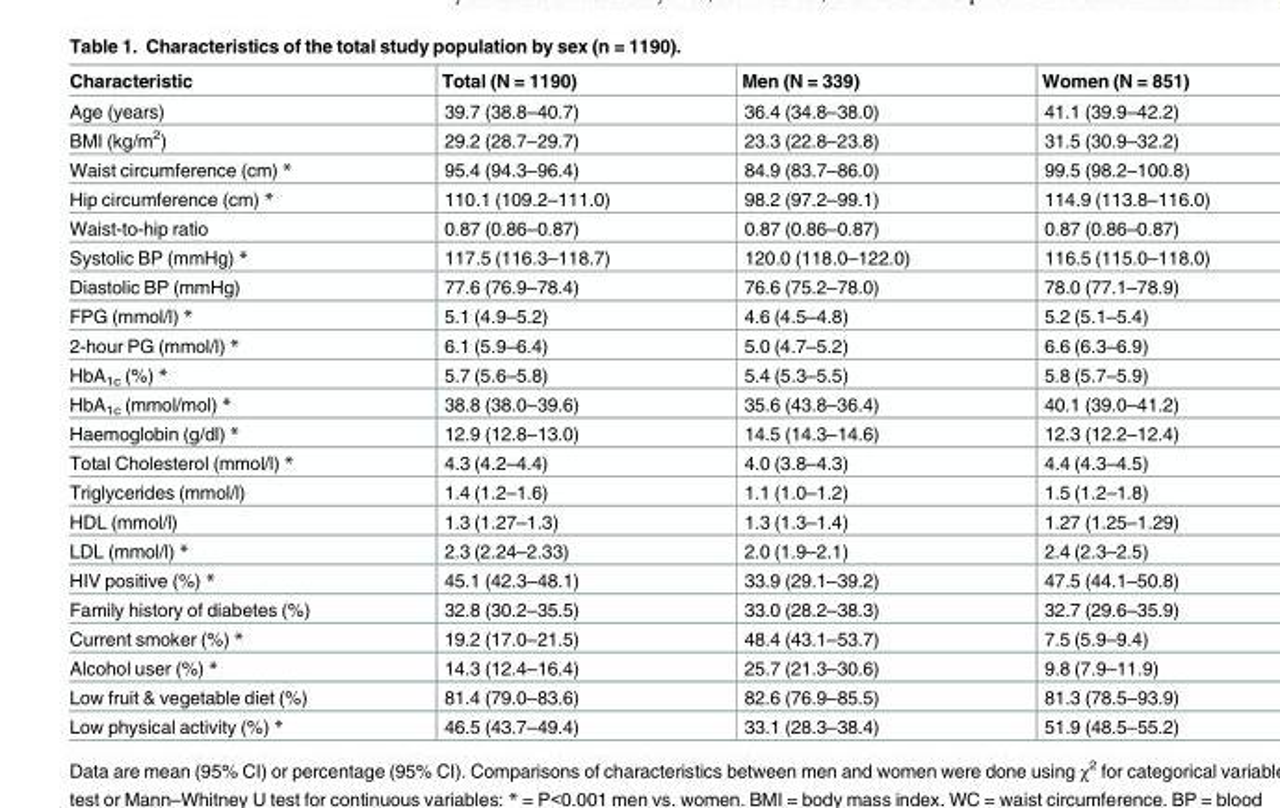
<table><thead><tr><td>Characteristic</td><td>Total (N = 1190)</td><td>Men (N = 339)</td><td>Women (N = 851)</td></tr></thead><tbody><tr><td>Age (years)</td><td>39.7 (38.8–40.7)</td><td>36.4 (34.8–38.0)</td><td>41.1 (39.9–42.2)</td></tr><tr><td>BMI (kg/m<sup>2</sup>)</td><td>29.2 (28.7–29.7)</td><td>23.3 (22.8–23.8)</td><td>31.5 (30.9–32.2)</td></tr><tr><td>Waist circumference (cm) *</td><td>95.4 (94.3–96.4)</td><td>84.9 (83.7–86.0)</td><td>99.5 (98.2–100.8)</td></tr><tr><td>Hip circumference (cm) *</td><td>110.1 (109.2–111.0)</td><td>98.2 (97.2–99.1)</td><td>114.9 (113.8–116.0)</td></tr><tr><td>Waist-to-hip ratio</td><td>0.87 (0.86–0.87)</td><td>0.87 (0.86–0.87)</td><td>0.87 (0.86–0.87)</td></tr><tr><td>Systolic BP (mmHg) *</td><td>117.5 (116.3–118.7)</td><td>120.0 (118.0–122.0)</td><td>116.5 (115.0–118.0)</td></tr><tr><td>Diastolic BP (mmHg)</td><td>77.6 (76.9–78.4)</td><td>76.6 (75.2–78.0)</td><td>78.0 (77.1–78.9)</td></tr><tr><td>FPG (mmol/l) *</td><td>5.1 (4.9–5.2)</td><td>4.6 (4.5–4.8)</td><td>5.2 (5.1–5.4)</td></tr><tr><td>2-hour PG (mmol/l) *</td><td>6.1 (5.9–6.4)</td><td>5.0 (4.7–5.2)</td><td>6.6 (6.3–6.9)</td></tr><tr><td>HbA<sub>1c</sub> (%) *</td><td>5.7 (5.6–5.8)</td><td>5.4 (5.3–5.5)</td><td>5.8 (5.7–5.9)</td></tr><tr><td>HbA<sub>1c</sub> (mmol/mol) *</td><td>38.8 (38.0–39.6)</td><td>35.6 (43.8–36.4)</td><td>40.1 (39.0–41.2)</td></tr><tr><td>Haemoglobin (g/dl) *</td><td>12.9 (12.8–13.0)</td><td>14.5 (14.3–14.6)</td><td>12.3 (12.2–12.4)</td></tr><tr><td>Total Cholesterol (mmol/l) *</td><td>4.3 (4.2–4.4)</td><td>4.0 (3.8–4.3)</td><td>4.4 (4.3–4.5)</td></tr><tr><td>Triglycerides (mmol/l)</td><td>1.4 (1.2–1.6)</td><td>1.1 (1.0–1.2)</td><td>1.5 (1.2–1.8)</td></tr><tr><td>HDL (mmol/l)</td><td>1.3 (1.27–1.3)</td><td>1.3 (1.3–1.4)</td><td>1.27 (1.25–1.29)</td></tr><tr><td>LDL (mmol/l) *</td><td>2.3 (2.24–2.33)</td><td>2.0 (1.9–2.1)</td><td>2.4 (2.3–2.5)</td></tr><tr><td>HIV positive (%) *</td><td>45.1 (42.3–48.1)</td><td>33.9 (29.1–39.2)</td><td>47.5 (44.1–50.8)</td></tr><tr><td>Family history of diabetes (%)</td><td>32.8 (30.2–35.5)</td><td>33.0 (28.2–38.3)</td><td>32.7 (29.6–35.9)</td></tr><tr><td>Current smoker (%) *</td><td>19.2 (17.0–21.5)</td><td>48.4 (43.1–53.7)</td><td>7.5 (5.9–9.4)</td></tr><tr><td>Alcohol user (%) *</td><td>14.3 (12.4–16.4)</td><td>25.7 (21.3–30.6)</td><td>9.8 (7.9–11.9)</td></tr><tr><td>Low fruit &amp; vegetable diet (%)</td><td>81.4 (79.0–83.6)</td><td>82.6 (76.9–85.5)</td><td>81.3 (78.5–93.9)</td></tr><tr><td>Low physical activity (%) *</td><td>46.5 (43.7–49.4)</td><td>33.1 (28.3–38.4)</td><td>51.9 (48.5–55.2)</td></tr></tbody></table>